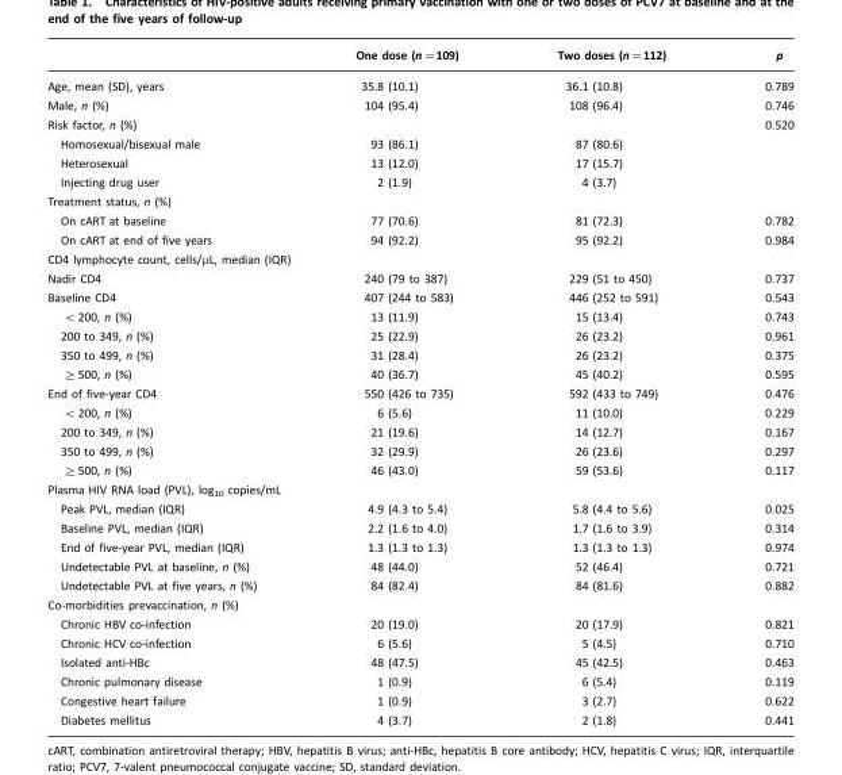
<table><thead><tr><td></td><td>One dose (n=109)</td><td>Two doses (n=112)</td><td>p</td></tr></thead><tbody><tr><td>Age, mean (SD), years</td><td>35.8 (10.1)</td><td>36.1 (10.8)</td><td>0.789</td></tr><tr><td>Male, n (%)</td><td>104 (95.4)</td><td>108 (96.4)</td><td>0.746</td></tr><tr><td>Risk factor, n (%)</td><td></td><td></td><td>0.520</td></tr><tr><td>Homosexual/bisexual male</td><td>93 (86.1)</td><td>87 (80.6)</td><td></td></tr><tr><td>Heterosexual</td><td>13 (12.0)</td><td>17 (15.7)</td><td></td></tr><tr><td>Injecting drug user</td><td>2 (1.9)</td><td>4 (3.7)</td><td></td></tr><tr><td colspan="4">Treatment status, n (%)</td></tr><tr><td>On cART at baseline</td><td>77 (70.6)</td><td>81 (72.3)</td><td>0.782</td></tr><tr><td>On cART at end of five years</td><td>94 (92.2)</td><td>95 (92.2)</td><td>0.984</td></tr><tr><td colspan="4">CD4 lymphocyte count, cells/µL, median (IQR)</td></tr><tr><td>Nadir CD4</td><td>240 (79 to 387)</td><td>229 (51 to 450)</td><td>0.737</td></tr><tr><td>Baseline CD4</td><td>407 (244 to 583)</td><td>446 (252 to 591)</td><td>0.543</td></tr><tr><td>&lt;200, n (%)</td><td>13 (11.9)</td><td>15 (13.4)</td><td>0.743</td></tr><tr><td>200 to 349, n (%)</td><td>25 (22.9)</td><td>26 (23.2)</td><td>0.961</td></tr><tr><td>350 to 499, n (%)</td><td>31 (28.4)</td><td>26 (23.2)</td><td>0.375</td></tr><tr><td>≥500, n (%)</td><td>40 (36.7)</td><td>45 (40.2)</td><td>0.595</td></tr><tr><td>End of five-year CD4</td><td>550 (426 to 735)</td><td>592 (433 to 749)</td><td>0.476</td></tr><tr><td>&lt;200, n (%)</td><td>6 (5.6)</td><td>11 (10.0)</td><td>0.229</td></tr><tr><td>200 to 349, n (%)</td><td>21 (19.6)</td><td>14 (12.7)</td><td>0.167</td></tr><tr><td>350 to 499, n (%)</td><td>32 (29.9)</td><td>26 (23.6)</td><td>0.297</td></tr><tr><td>≥500, n (%)</td><td>46 (43.0)</td><td>59 (53.6)</td><td>0.117</td></tr><tr><td colspan="4">Plasma HIV RNA load (PVL), log<sub>10</sub> copies/mL</td></tr><tr><td>Peak PVL, median (IQR)</td><td>4.9 (4.3 to 5.4)</td><td>5.8 (4.4 to 5.6)</td><td>0.025</td></tr><tr><td>Baseline PVL, median (IQR)</td><td>2.2 (1.6 to 4.0)</td><td>1.7 (1.6 to 3.9)</td><td>0.314</td></tr><tr><td>End of five-year PVL, median (IQR)</td><td>1.3 (1.3 to 1.3)</td><td>1.3 (1.3 to 1.3)</td><td>0.974</td></tr><tr><td>Undetectable PVL at baseline, n (%)</td><td>48 (44.0)</td><td>52 (46.4)</td><td>0.721</td></tr><tr><td>Undetectable PVL at five years, n (%)</td><td>84 (82.4)</td><td>84 (81.6)</td><td>0.882</td></tr><tr><td colspan="4">Co-morbidities prevaccination, n (%)</td></tr><tr><td>Chronic HBV co-infection</td><td>20 (19.0)</td><td>20 (17.9)</td><td>0.821</td></tr><tr><td>Chronic HCV co-infection</td><td>6 (5.6)</td><td>5 (4.5)</td><td>0.710</td></tr><tr><td>Isolated anti-HBc</td><td>48 (47.5)</td><td>45 (42.5)</td><td>0.463</td></tr><tr><td>Chronic pulmonary disease</td><td>1 (0.9)</td><td>6 (5.4)</td><td>0.119</td></tr><tr><td>Congestive heart failure</td><td>1 (0.9)</td><td>3 (2.7)</td><td>0.622</td></tr><tr><td>Diabetes mellitus</td><td>4 (3.7)</td><td>2 (1.8)</td><td>0.441</td></tr></tbody></table>